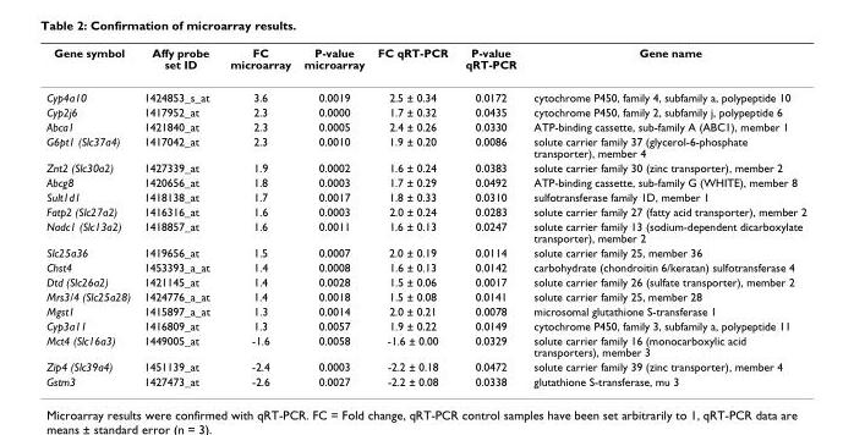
<table><thead><tr><td>Gene symbol</td><td>Affy probe set ID</td><td>FC microarray</td><td>P-value microarray</td><td>FC qRT-PCR</td><td>P-value qRT-PCR</td><td>Gene name</td></tr></thead><tbody><tr><td>Cyp4a10</td><td>1424853_s_at</td><td>3.6</td><td>0.0019</td><td>2.5 ± 0.34</td><td>0.0172</td><td>cytochrome P450, family 4, subfamily a, polypeptide 10</td></tr><tr><td>Cyp2j6</td><td>1417952_at</td><td>2.3</td><td>0.0000</td><td>1.7 ± 0.32</td><td>0.0435</td><td>cytochrome P450, family 2, subfamily j, polypeptide 6</td></tr><tr><td>Abca1</td><td>1421840_at</td><td>2.3</td><td>0.0005</td><td>2.4 ± 0.26</td><td>0.0330</td><td>ATP-binding cassette, sub-family A (ABC1), member 1</td></tr><tr><td>G6pt1 (Slc37a4)</td><td>1417042_at</td><td>2.3</td><td>0.0010</td><td>1.9 ± 0.20</td><td>0.0086</td><td>solute carrier family 37 (glycerol-6-phosphate transporter), member 4</td></tr><tr><td>Znt2 (Slc30a2)</td><td>1427339_at</td><td>1.9</td><td>0.0002</td><td>1.6 ± 0.24</td><td>0.0383</td><td>solute carrier family 30 (zinc transporter), member 2</td></tr><tr><td>Abcg8</td><td>1420656_at</td><td>1.8</td><td>0.0003</td><td>1.7 ± 0.29</td><td>0.0492</td><td>ATP-binding cassette, sub-family G (WHITE), member 8</td></tr><tr><td>Sult1d1</td><td>1418138_at</td><td>1.7</td><td>0.0017</td><td>1.8 ± 0.33</td><td>0.0310</td><td>sulfotransferase family 1D, member 1</td></tr><tr><td>Fatp2 (Slc27a2)</td><td>1416316_at</td><td>1.6</td><td>0.0003</td><td>2.0 ± 0.24</td><td>0.0283</td><td>solute carrier family 27 (fatty acid transporter), member 2</td></tr><tr><td>Nadc1 (Slc13a2)</td><td>1418857_at</td><td>1.6</td><td>0.0011</td><td>1.6 ± 0.13</td><td>0.0247</td><td>solute carrier family 13 (sodium-dependent dicarboxylate transporter), member 2</td></tr><tr><td>Slc25a36</td><td>1419656_at</td><td>1.5</td><td>0.0007</td><td>2.0 ± 0.19</td><td>0.0114</td><td>solute carrier family 25, member 36</td></tr><tr><td>Chst4</td><td>1453393_a_at</td><td>1.4</td><td>0.0008</td><td>1.6 ± 0.13</td><td>0.0142</td><td>carbohydrate (chondroitin 6/keratan) sulfotransferase 4</td></tr><tr><td>Dtd (Slc26a2)</td><td>1421145_at</td><td>1.4</td><td>0.0028</td><td>1.5 ± 0.06</td><td>0.0017</td><td>solute carrier family 26 (sulfate transporter), member 2</td></tr><tr><td>Mrs3/4 (Slc25a28)</td><td>1424776_a_at</td><td>1.4</td><td>0.0018</td><td>1.5 ± 0.08</td><td>0.0141</td><td>solute carrier family 25, member 28</td></tr><tr><td>Mgst1</td><td>1415897_a_at</td><td>1.3</td><td>0.0014</td><td>2.0 ± 0.21</td><td>0.0078</td><td>microsomal glutathione S-transferase 1</td></tr><tr><td>Cyp3a11</td><td>1416809_at</td><td>1.3</td><td>0.0057</td><td>1.9 ± 0.22</td><td>0.0149</td><td>cytochrome P450, family 3, subfamily a, polypeptide 11</td></tr><tr><td>Mct4 (Slc16a3)</td><td>1449005_at</td><td>-1.6</td><td>0.0058</td><td>-1.6 ± 0.00</td><td>0.0329</td><td>solute carrier family 16 (monocarboxylic acid transporters), member 3</td></tr><tr><td>Zip4 (Slc39a4)</td><td>1451139_at</td><td>-2.4</td><td>0.0003</td><td>-2.2 ± 0.18</td><td>0.0472</td><td>solute carrier family 39 (zinc transporter), member 4</td></tr><tr><td>Gstm3</td><td>1427473_at</td><td>-2.6</td><td>0.0027</td><td>-2.2 ± 0.08</td><td>0.0338</td><td>glutathione S-transferase, mu 3</td></tr></tbody></table>